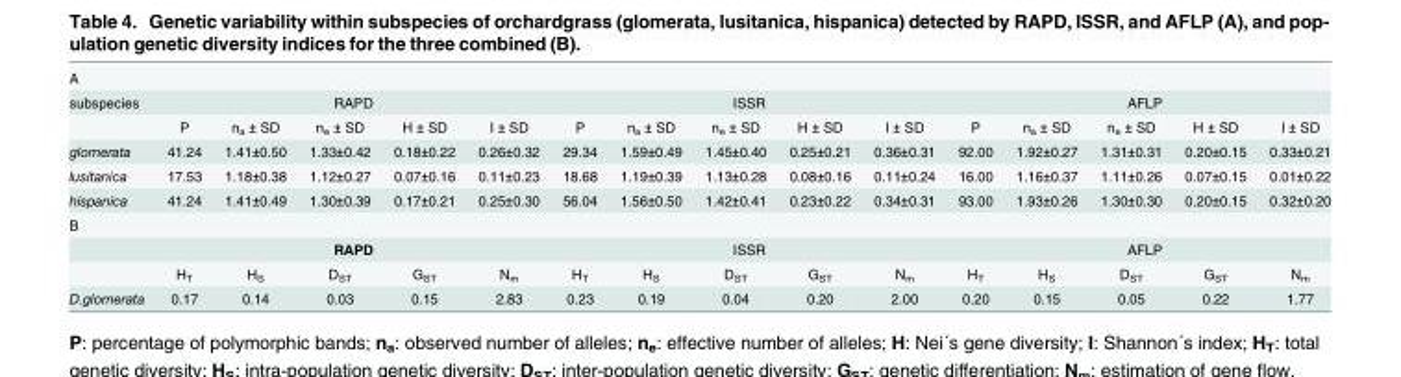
<table><tbody><tr><td colspan="16">A</td></tr><tr><td rowspan="2">subspecies</td><td colspan="5">RAPD</td><td colspan="5">ISSR</td><td colspan="5">AFLP</td></tr><tr><td>P</td><td>n<sub>a</sub> ± SD</td><td>n<sub>e</sub> ± SD</td><td>H ± SD</td><td>I ± SD</td><td>P</td><td>n<sub>a</sub> ± SD</td><td>n<sub>e</sub> ± SD</td><td>H ± SD</td><td>I ± SD</td><td>P</td><td>n<sub>a</sub> ± SD</td><td>n<sub>e</sub> ± SD</td><td>H ± SD</td><td>I ± SD</td></tr><tr><td>glomerata</td><td>41.24</td><td>1.41±0.50</td><td>1.33±0.42</td><td>0.18±0.22</td><td>0.26±0.32</td><td>29.34</td><td>1.59±0.49</td><td>1.45±0.40</td><td>0.25±0.21</td><td>0.36±0.31</td><td>92.00</td><td>1.92±0.27</td><td>1.31±0.31</td><td>0.20±0.15</td><td>0.33±0.21</td></tr><tr><td>lusitanica</td><td>17.53</td><td>1.18±0.38</td><td>1.12±0.27</td><td>0.07±0.16</td><td>0.11±0.23</td><td>18.68</td><td>1.19±0.39</td><td>1.13±0.28</td><td>0.08±0.16</td><td>0.11±0.24</td><td>16.00</td><td>1.16±0.37</td><td>1.11±0.26</td><td>0.07±0.15</td><td>0.01±0.22</td></tr><tr><td>hispanica</td><td>41.24</td><td>1.41±0.49</td><td>1.30±0.39</td><td>0.17±0.21</td><td>0.25±0.30</td><td>56.04</td><td>1.56±0.50</td><td>1.42±0.41</td><td>0.23±0.22</td><td>0.34±0.31</td><td>93.00</td><td>1.93±0.26</td><td>1.30±0.30</td><td>0.20±0.15</td><td>0.32±0.20</td></tr><tr><td colspan="16">B</td></tr><tr><td></td><td colspan="5">RAPD</td><td colspan="5">ISSR</td><td colspan="5">AFLP</td></tr><tr><td></td><td>H<sub>T</sub></td><td>H<sub>S</sub></td><td>D<sub>ST</sub></td><td>G<sub>ST</sub></td><td>N<sub>m</sub></td><td>H<sub>T</sub></td><td>H<sub>S</sub></td><td>D<sub>ST</sub></td><td>G<sub>ST</sub></td><td>N<sub>m</sub></td><td>H<sub>T</sub></td><td>H<sub>S</sub></td><td>D<sub>ST</sub></td><td>G<sub>ST</sub></td><td>N<sub>m</sub></td></tr><tr><td>D.glomerata</td><td>0.17</td><td>0.14</td><td>0.03</td><td>0.15</td><td>2.83</td><td>0.23</td><td>0.19</td><td>0.04</td><td>0.20</td><td>2.00</td><td>0.20</td><td>0.15</td><td>0.05</td><td>0.22</td><td>1.77</td></tr></tbody></table>